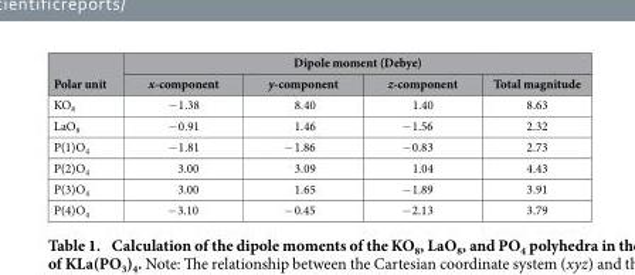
<table><thead><tr><td rowspan="2">Polar unit</td><td colspan="4">Dipole moment (Debye)</td></tr><tr><td>x-component</td><td>y-component</td><td>z-component</td><td>Total magnitude</td></tr></thead><tbody><tr><td>KO<sub>8</sub></td><td>− 1.38</td><td>8.40</td><td>1.40</td><td>8.63</td></tr><tr><td>LaO<sub>8</sub></td><td>− 0.91</td><td>1.46</td><td>− 1.56</td><td>2.32</td></tr><tr><td>P(1)O<sub>4</sub></td><td>− 1.81</td><td>− 1.86</td><td>− 0.83</td><td>2.73</td></tr><tr><td>P(2)O<sub>4</sub></td><td>3.00</td><td>3.09</td><td>1.04</td><td>4.43</td></tr><tr><td>P(3)O<sub>4</sub></td><td>3.00</td><td>1.65</td><td>− 1.89</td><td>3.91</td></tr><tr><td>P(4)O<sub>4</sub></td><td>− 3.10</td><td>− 0.45</td><td>− 2.13</td><td>3.79</td></tr></tbody></table>